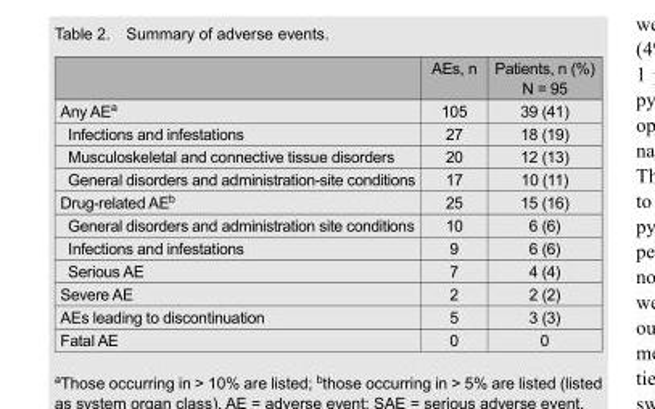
<table><thead><tr><td></td><td>AEs, n</td><td>Patients, n (%) N = 95</td></tr></thead><tbody><tr><td>Any AE<sup>a</sup></td><td>105</td><td>39 (41)</td></tr><tr><td>Infections and infestations</td><td>27</td><td>18 (19)</td></tr><tr><td>Musculoskeletal and connective tissue disorders</td><td>20</td><td>12 (13)</td></tr><tr><td>General disorders and administration-site conditions</td><td>17</td><td>10 (11)</td></tr><tr><td>Drug-related AE<sup>b</sup></td><td>25</td><td>15 (16)</td></tr><tr><td>General disorders and administration site conditions</td><td>10</td><td>6 (6)</td></tr><tr><td>Infections and infestations</td><td>9</td><td>6 (6)</td></tr><tr><td>Serious AE</td><td>7</td><td>4 (4)</td></tr><tr><td>Severe AE</td><td>2</td><td>2 (2)</td></tr><tr><td>AEs leading to discontinuation</td><td>5</td><td>3 (3)</td></tr><tr><td>Fatal AE</td><td>0</td><td>0</td></tr></tbody></table>